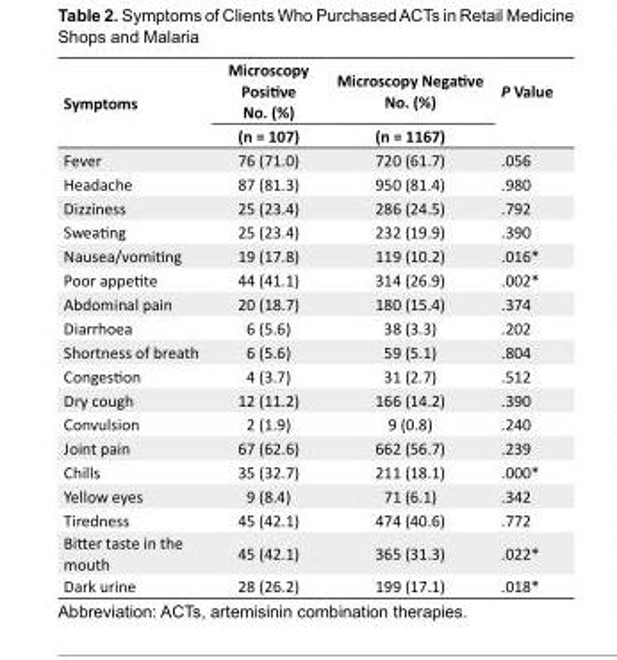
<table><tbody><tr><td rowspan="2">Symptoms</td><td>Microscopy Positive No. (%)</td><td>Microscopy Negative No. (%)</td><td rowspan="2">P Value</td></tr><tr><td>(n = 107)</td><td>(n = 1167)</td></tr><tr><td>Fever</td><td>76 (71.0)</td><td>720 (61.7)</td><td>.056</td></tr><tr><td>Headache</td><td>87 (81.3)</td><td>950 (81.4)</td><td>.980</td></tr><tr><td>Dizziness</td><td>25 (23.4)</td><td>286 (24.5)</td><td>.792</td></tr><tr><td>Sweating</td><td>25 (23.4)</td><td>232 (19.9)</td><td>.390</td></tr><tr><td>Nausea/vomiting</td><td>19 (17.8)</td><td>119 (10.2)</td><td>.016*</td></tr><tr><td>Poor appetite</td><td>44 (41.1)</td><td>314 (26.9)</td><td>.002*</td></tr><tr><td>Abdominal pain</td><td>20 (18.7)</td><td>180 (15.4)</td><td>.374</td></tr><tr><td>Diarrhoea</td><td>6 (5.6)</td><td>38 (3.3)</td><td>.202</td></tr><tr><td>Shortness of breath</td><td>6 (5.6)</td><td>59 (5.1)</td><td>.804</td></tr><tr><td>Congestion</td><td>4 (3.7)</td><td>31 (2.7)</td><td>.512</td></tr><tr><td>Dry cough</td><td>12 (11.2)</td><td>166 (14.2)</td><td>.390</td></tr><tr><td>Convulsion</td><td>2 (1.9)</td><td>9 (0.8)</td><td>.240</td></tr><tr><td>Joint pain</td><td>67 (62.6)</td><td>662 (56.7)</td><td>.239</td></tr><tr><td>Chills</td><td>35 (32.7)</td><td>211 (18.1)</td><td>.000*</td></tr><tr><td>Yellow eyes</td><td>9 (8.4)</td><td>71 (6.1)</td><td>.342</td></tr><tr><td>Tiredness</td><td>45 (42.1)</td><td>474 (40.6)</td><td>.772</td></tr><tr><td>Bitter taste in the mouth</td><td>45 (42.1)</td><td>365 (31.3)</td><td>.022*</td></tr><tr><td>Dark urine</td><td>28 (26.2)</td><td>199 (17.1)</td><td>.018*</td></tr></tbody></table>